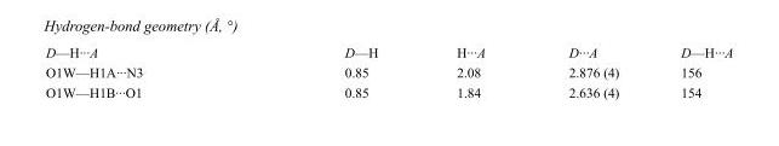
<table><tbody><tr><td>D—H···A</td><td>D—H</td><td>H···A</td><td>D···A</td><td>D—H···A</td></tr><tr><td>O1W—H1A···N3</td><td>0.85</td><td>2.08</td><td>2.876 (4)</td><td>156</td></tr><tr><td>O1W—H1B···O1</td><td>0.85</td><td>1.84</td><td>2.636 (4)</td><td>154</td></tr></tbody></table>